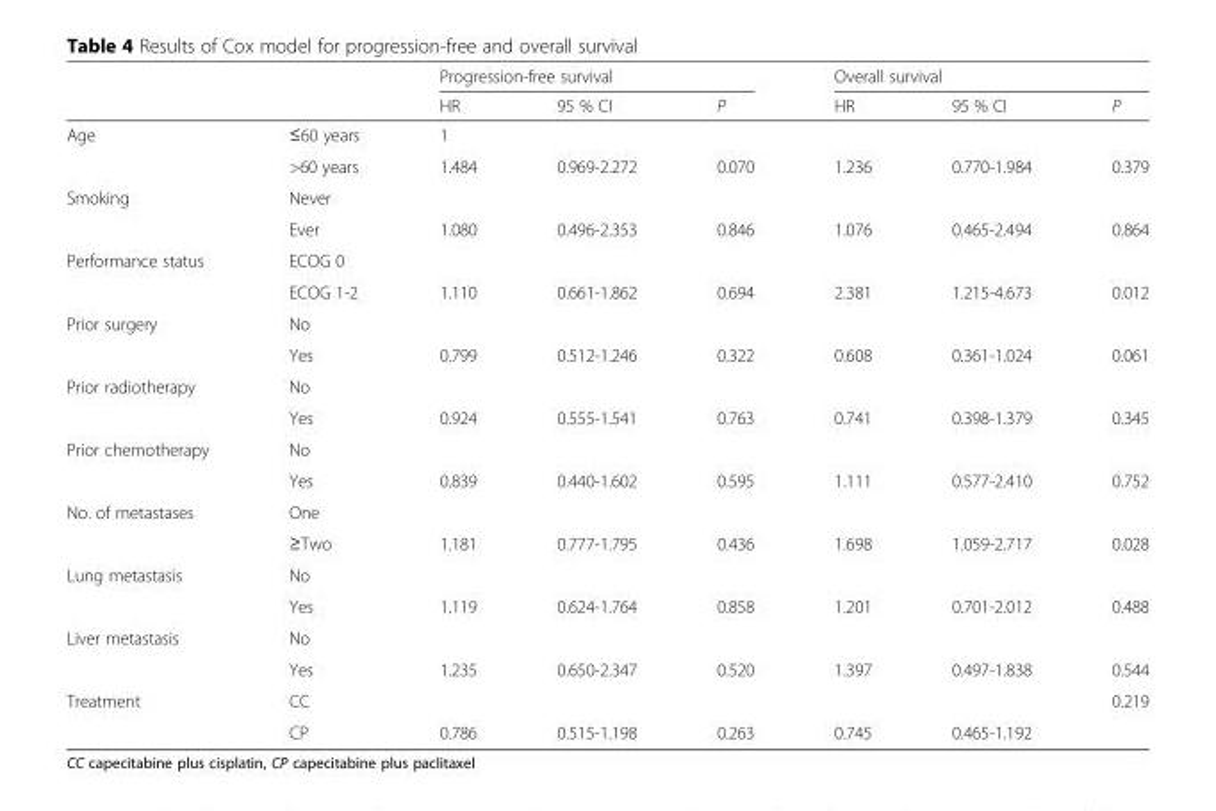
<table><thead><tr><td rowspan="2"></td><td rowspan="2"></td><td colspan="3">Progression-free survival</td><td colspan="3">Overall survival</td></tr><tr><td>HR</td><td>95 % CI</td><td>P</td><td>HR</td><td>95 % CI</td><td>P</td></tr></thead><tbody><tr><td rowspan="2">Age</td><td>≤60 years</td><td>1</td><td></td><td></td><td></td><td></td><td></td></tr><tr><td>&gt;60 years</td><td>1.484</td><td>0.969-2.272</td><td>0.070</td><td>1.236</td><td>0.770-1.984</td><td>0.379</td></tr><tr><td rowspan="2">Smoking</td><td>Never</td><td></td><td></td><td></td><td></td><td></td><td></td></tr><tr><td>Ever</td><td>1.080</td><td>0.496-2.353</td><td>0.846</td><td>1.076</td><td>0.465-2.494</td><td>0.864</td></tr><tr><td rowspan="2">Performance status</td><td>ECOG 0</td><td></td><td></td><td></td><td></td><td></td><td></td></tr><tr><td>ECOG 1-2</td><td>1.110</td><td>0.661-1.862</td><td>0.694</td><td>2.381</td><td>1.215-4.673</td><td>0.012</td></tr><tr><td rowspan="2">Prior surgery</td><td>No</td><td></td><td></td><td></td><td></td><td></td><td></td></tr><tr><td>Yes</td><td>0.799</td><td>0.512-1.246</td><td>0.322</td><td>0.608</td><td>0.361-1.024</td><td>0.061</td></tr><tr><td rowspan="2">Prior radiotherapy</td><td>No</td><td></td><td></td><td></td><td></td><td></td><td></td></tr><tr><td>Yes</td><td>0.924</td><td>0.555-1.541</td><td>0.763</td><td>0.741</td><td>0.398-1.379</td><td>0.345</td></tr><tr><td rowspan="2">Prior chemotherapy</td><td>No</td><td></td><td></td><td></td><td></td><td></td><td></td></tr><tr><td>Yes</td><td>0.839</td><td>0.440-1.602</td><td>0.595</td><td>1.111</td><td>0.577-2.410</td><td>0.752</td></tr><tr><td rowspan="2">No. of metastases</td><td>One</td><td></td><td></td><td></td><td></td><td></td><td></td></tr><tr><td>≥Two</td><td>1.181</td><td>0.777-1.795</td><td>0.436</td><td>1.698</td><td>1.059-2.717</td><td>0.028</td></tr><tr><td rowspan="2">Lung metastasis</td><td>No</td><td></td><td></td><td></td><td></td><td></td><td></td></tr><tr><td>Yes</td><td>1.119</td><td>0.624-1.764</td><td>0.858</td><td>1.201</td><td>0.701-2.012</td><td>0.488</td></tr><tr><td rowspan="2">Liver metastasis</td><td>No</td><td></td><td></td><td></td><td></td><td></td><td></td></tr><tr><td>Yes</td><td>1.235</td><td>0.650-2.347</td><td>0.520</td><td>1.397</td><td>0.497-1.838</td><td>0.544</td></tr><tr><td rowspan="2">Treatment</td><td>CC</td><td></td><td></td><td></td><td></td><td></td><td rowspan="2">0.219</td></tr><tr><td>CP</td><td>0.786</td><td>0.515-1.198</td><td>0.263</td><td>0.745</td><td>0.465-1.192</td></tr></tbody></table>